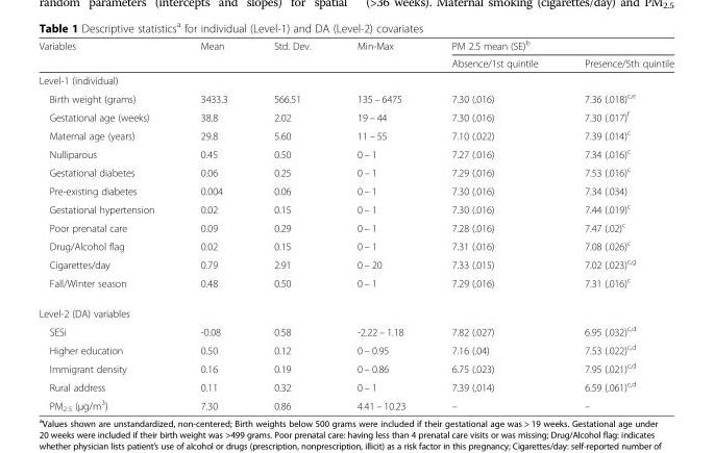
<table><thead><tr><td rowspan="2">Variables</td><td rowspan="2">Mean</td><td rowspan="2">Std. Dev.</td><td rowspan="2">Min-Max</td><td colspan="2">PM 2.5 mean (SE)<sup>b</sup></td></tr><tr><td>Absence/1st quintile</td><td>Presence/5th quintile</td></tr></thead><tbody><tr><td colspan="6">Level-1 (individual)</td></tr><tr><td>Birth weight (grams)</td><td>3433.3</td><td>566.51</td><td>135 – 6475</td><td>7.30 (.016)</td><td>7.36 (.018)<sup>c,e</sup></td></tr><tr><td>Gestational age (weeks)</td><td>38.8</td><td>2.02</td><td>19 – 44</td><td>7.30 (.016)</td><td>7.30 (.017)<sup>f</sup></td></tr><tr><td>Maternal age (years)</td><td>29.8</td><td>5.60</td><td>11 – 55</td><td>7.10 (.022)</td><td>7.39 (.014)<sup>c</sup></td></tr><tr><td>Nulliparous</td><td>0.45</td><td>0.50</td><td>0 – 1</td><td>7.27 (.016)</td><td>7.34 (.016)<sup>c</sup></td></tr><tr><td>Gestational diabetes</td><td>0.06</td><td>0.25</td><td>0 – 1</td><td>7.29 (.016)</td><td>7.53 (.016)<sup>c</sup></td></tr><tr><td>Pre-existing diabetes</td><td>0.004</td><td>0.06</td><td>0 – 1</td><td>7.30 (.016)</td><td>7.34 (.034)</td></tr><tr><td>Gestational hypertension</td><td>0.02</td><td>0.15</td><td>0 – 1</td><td>7.30 (.016)</td><td>7.44 (.019)<sup>c</sup></td></tr><tr><td>Poor prenatal care</td><td>0.09</td><td>0.29</td><td>0 – 1</td><td>7.28 (.016)</td><td>7.47 (.02)<sup>c</sup></td></tr><tr><td>Drug/Alcohol flag</td><td>0.02</td><td>0.15</td><td>0 – 1</td><td>7.31 (.016)</td><td>7.08 (.026)<sup>c</sup></td></tr><tr><td>Cigarettes/day</td><td>0.79</td><td>2.91</td><td>0 – 20</td><td>7.33 (.015)</td><td>7.02 (.023)<sup>c,g</sup></td></tr><tr><td>Fall/Winter season</td><td>0.48</td><td>0.50</td><td>0 – 1</td><td>7.29 (.016)</td><td>7.31 (.016)<sup>c</sup></td></tr><tr><td colspan="6">Level-2 (DA) variables</td></tr><tr><td>SESi</td><td>-0.08</td><td>0.58</td><td>-2.22 – 1.18</td><td>7.82 (.027)</td><td>6.95 (.032)<sup>c,d</sup></td></tr><tr><td>Higher education</td><td>0.50</td><td>0.12</td><td>0 – 0.95</td><td>7.16 (.04)</td><td>7.53 (.022)<sup>c,d</sup></td></tr><tr><td>Immigrant density</td><td>0.16</td><td>0.19</td><td>0 – 0.86</td><td>6.75 (.023)</td><td>7.95 (.021)<sup>c,d</sup></td></tr><tr><td>Rural address</td><td>0.11</td><td>0.32</td><td>0 – 1</td><td>7.39 (.014)</td><td>6.59 (.061)<sup>c,d</sup></td></tr><tr><td>PM<sub>2.5</sub> (μg/m<sup>3</sup>)</td><td>7.30</td><td>0.86</td><td>4.41 – 10.23</td><td>–</td><td>–</td></tr></tbody></table>